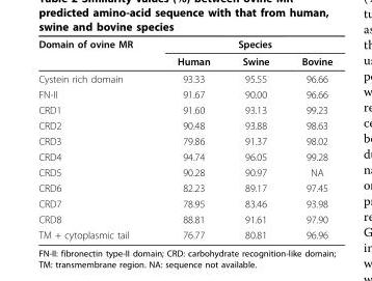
<table><thead><tr><td rowspan="2">Domain of ovine MR</td><td colspan="3">Species</td></tr><tr><td>Human</td><td>Swine</td><td>Bovine</td></tr></thead><tbody><tr><td>Cystein rich domain</td><td>93.33</td><td>95.55</td><td>96.66</td></tr><tr><td>FN-II</td><td>91.67</td><td>90.00</td><td>96.66</td></tr><tr><td>CRD1</td><td>91.60</td><td>93.13</td><td>99.23</td></tr><tr><td>CRD2</td><td>90.48</td><td>93.88</td><td>98.63</td></tr><tr><td>CRD3</td><td>79.86</td><td>91.37</td><td>98.02</td></tr><tr><td>CRD4</td><td>94.74</td><td>96.05</td><td>99.28</td></tr><tr><td>CRD5</td><td>90.28</td><td>90.97</td><td>NA</td></tr><tr><td>CRD6</td><td>82.23</td><td>89.17</td><td>97.45</td></tr><tr><td>CRD7</td><td>78.95</td><td>83.46</td><td>93.98</td></tr><tr><td>CRD8</td><td>88.81</td><td>91.61</td><td>97.90</td></tr><tr><td>TM + cytoplasmic tail</td><td>76.77</td><td>80.81</td><td>96.96</td></tr></tbody></table>